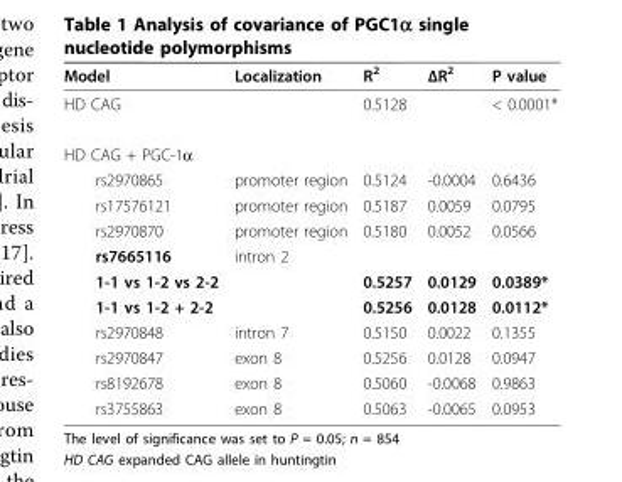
<table><thead><tr><td>Model</td><td>Localization</td><td>R<sup>2</sup></td><td>ΔR<sup>2</sup></td><td>P value</td></tr></thead><tbody><tr><td>HD CAG</td><td></td><td>0.5128</td><td></td><td>&lt; 0.0001*</td></tr><tr><td colspan="5">HD CAG + PGC-1α</td></tr><tr><td>rs2970865</td><td>promoter region</td><td>0.5124</td><td>-0.0004</td><td>0.6436</td></tr><tr><td>rs17576121</td><td>promoter region</td><td>0.5187</td><td>0.0059</td><td>0.0795</td></tr><tr><td>rs2970870</td><td>promoter region</td><td>0.5180</td><td>0.0052</td><td>0.0566</td></tr><tr><td>rs7665116</td><td>intron 2</td><td></td><td></td><td></td></tr><tr><td>1-1 vs 1-2 vs 2-2</td><td></td><td>0.5257</td><td>0.0129</td><td>0.0389*</td></tr><tr><td>1-1 vs 1-2 + 2-2</td><td></td><td>0.5256</td><td>0.0128</td><td>0.0112*</td></tr><tr><td>rs2970848</td><td>intron 7</td><td>0.5150</td><td>0.0022</td><td>0.1355</td></tr><tr><td>rs2970847</td><td>exon 8</td><td>0.5256</td><td>0.0128</td><td>0.0947</td></tr><tr><td>rs8192678</td><td>exon 8</td><td>0.5060</td><td>-0.0068</td><td>0.9863</td></tr><tr><td>rs3755863</td><td>exon 8</td><td>0.5063</td><td>-0.0065</td><td>0.0953</td></tr></tbody></table>